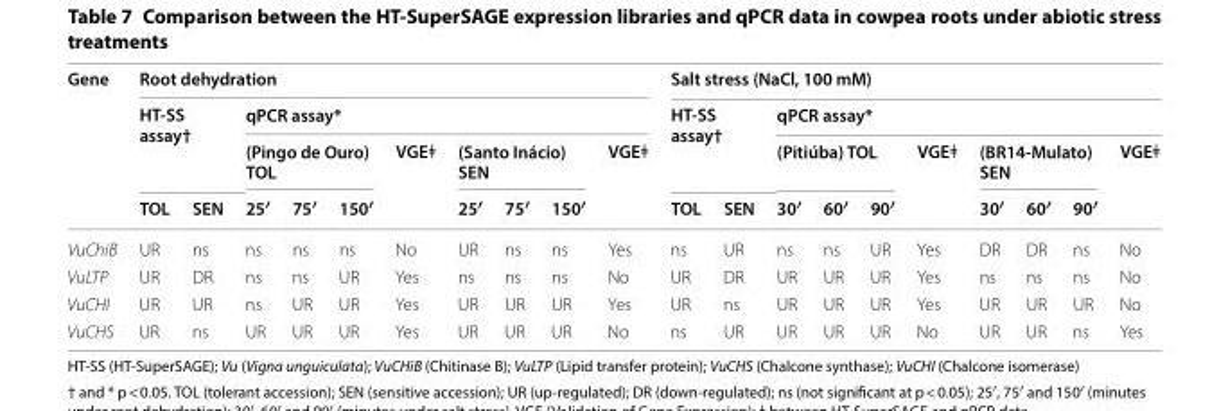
<table><thead><tr><td rowspan="4">Gene</td><td colspan="10">Root dehydration</td><td colspan="10">Salt stress (NaCl, 100 mM)</td></tr><tr><td rowspan="2" colspan="2">HT‑SS assay†</td><td colspan="8">qPCR assay*</td><td rowspan="2" colspan="2">HT‑SS assay†</td><td colspan="8">qPCR assay*</td></tr><tr><td colspan="3">(Pingo de Ouro) TOL</td><td rowspan="2">VGEǂ</td><td colspan="3">(Santo Inácio) SEN</td><td rowspan="2">VGEǂ</td><td colspan="3">(Pitiúba) TOL</td><td rowspan="2">VGEǂ</td><td colspan="3">(BR14‑Mulato) SEN</td><td rowspan="2">VGEǂ</td></tr><tr><td>TOL</td><td>SEN</td><td>25′</td><td>75′</td><td>150′</td><td>25′</td><td>75′</td><td>150′</td><td>TOL</td><td>SEN</td><td>30′</td><td>60′</td><td>90′</td><td>30′</td><td>60′</td><td>90′</td></tr></thead><tbody><tr><td>VuChiB</td><td>UR</td><td>ns</td><td>ns</td><td>ns</td><td>ns</td><td>No</td><td>UR</td><td>ns</td><td>ns</td><td>Yes</td><td>ns</td><td>UR</td><td>ns</td><td>ns</td><td>UR</td><td>Yes</td><td>DR</td><td>DR</td><td>ns</td><td>No</td></tr><tr><td>VuLTP</td><td>UR</td><td>DR</td><td>ns</td><td>ns</td><td>UR</td><td>Yes</td><td>ns</td><td>ns</td><td>ns</td><td>No</td><td>UR</td><td>DR</td><td>UR</td><td>UR</td><td>UR</td><td>Yes</td><td>ns</td><td>ns</td><td>ns</td><td>No</td></tr><tr><td>VuCHI</td><td>UR</td><td>UR</td><td>ns</td><td>UR</td><td>UR</td><td>Yes</td><td>UR</td><td>UR</td><td>UR</td><td>Yes</td><td>UR</td><td>ns</td><td>UR</td><td>UR</td><td>UR</td><td>Yes</td><td>UR</td><td>UR</td><td>UR</td><td>No</td></tr><tr><td>VuCHS</td><td>UR</td><td>ns</td><td>UR</td><td>UR</td><td>UR</td><td>Yes</td><td>UR</td><td>UR</td><td>UR</td><td>No</td><td>ns</td><td>UR</td><td>UR</td><td>UR</td><td>UR</td><td>No</td><td>UR</td><td>UR</td><td>ns</td><td>Yes</td></tr></tbody></table>